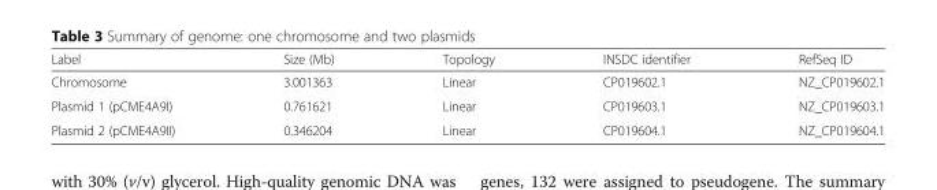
<table><thead><tr><td>Label</td><td>Size (Mb)</td><td>Topology</td><td>INSDC identifier</td><td>RefSeq ID</td></tr></thead><tbody><tr><td>Chromosome</td><td>3.001363</td><td>Linear</td><td>CP019602.1</td><td>NZ_CP019602.1</td></tr><tr><td>Plasmid 1 (pCME4A9I)</td><td>0.761621</td><td>Linear</td><td>CP019603.1</td><td>NZ_CP019603.1</td></tr><tr><td>Plasmid 2 (pCME4A9II)</td><td>0.346204</td><td>Linear</td><td>CP019604.1</td><td>NZ_CP019604.1</td></tr></tbody></table>